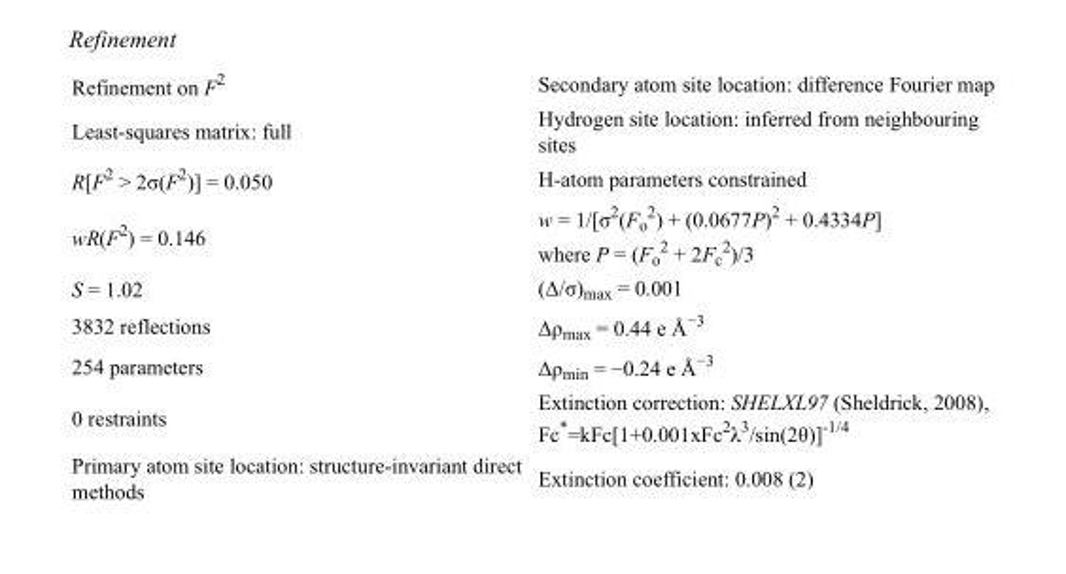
<table><tbody><tr><td>Refinement on F<sup>2</sup></td><td>Secondary atom site location: difference Fourier map</td></tr><tr><td>Least-squares matrix: full</td><td>Hydrogen site location: inferred from neighbouring sites</td></tr><tr><td>R[F<sup>2</sup> &gt; 2σ(F<sup>2</sup>)] = 0.050</td><td>H-atom parameters constrained</td></tr><tr><td>wR(F<sup>2</sup>) = 0.146</td><td>w = 1/[σ<sup>2</sup>(F<sub>o</sub> <sup>2</sup>) + (0.0677P)<sup>2</sup> + 0.4334P] where P = (F<sub>o</sub> <sup>2</sup> + 2F<sub>c</sub> <sup>2</sup>)/3</td></tr><tr><td>S = 1.02</td><td>(Δ/σ)<sub>max</sub> = 0.001</td></tr><tr><td>3832 reflections</td><td>Δρ<sub>max</sub> = 0.44 e Å<sup>−3</sup></td></tr><tr><td>254 parameters</td><td>Δρ<sub>min</sub> = −0.24 e Å<sup>−3</sup></td></tr><tr><td>0 restraints</td><td>Extinction correction: SHELXL97 (Sheldrick, 2008), Fc*=kFc[1+0.001xFc<sup>2</sup>λ<sup>3</sup>/sin(2θ)]<sup>-1/4</sup></td></tr><tr><td>Primary atom site location: structure-invariant direct methods</td><td>Extinction coefficient: 0.008 (2)</td></tr></tbody></table>